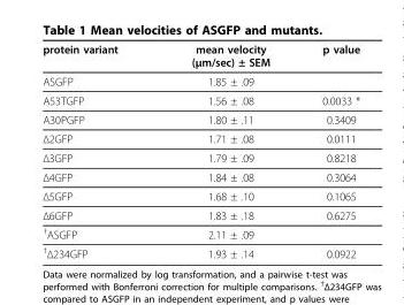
<table><thead><tr><td>protein variant</td><td>mean velocity (μm/sec) ± SEM</td><td>p value</td></tr></thead><tbody><tr><td>ASGFP</td><td>1.85 ± .09</td><td></td></tr><tr><td>A53TGFP</td><td>1.56 ± .08</td><td>0.0033 *</td></tr><tr><td>A30PGFP</td><td>1.80 ± .11</td><td>0.3409</td></tr><tr><td>Δ2GFP</td><td>1.71 ± .08</td><td>0.0111</td></tr><tr><td>Δ3GFP</td><td>1.79 ± .09</td><td>0.8218</td></tr><tr><td>Δ4GFP</td><td>1.84 ± .08</td><td>0.3064</td></tr><tr><td>Δ5GFP</td><td>1.68 ± .10</td><td>0.1065</td></tr><tr><td>Δ6GFP</td><td>1.83 ± .18</td><td>0.6275</td></tr><tr><td><sup>†</sup>ASGFP</td><td>2.11 ± .09</td><td></td></tr><tr><td><sup>†</sup>Δ234GFP</td><td>1.93 ± .14</td><td>0.0922</td></tr></tbody></table>